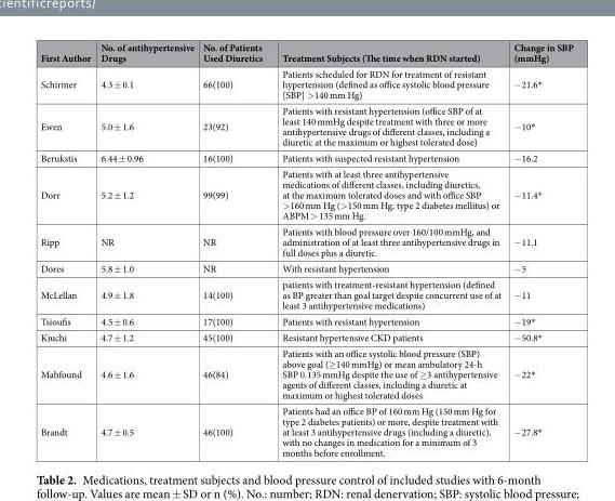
<table><thead><tr><td>First Author</td><td>No. of antihypertensive Drugs</td><td>No. of Patients Used Diuretics</td><td>Treatment Subjects (The time when RDN started)</td><td>Change in SBP (mmHg)</td></tr></thead><tbody><tr><td>Schirmer</td><td>4.3 ± 0.1</td><td>66(100)</td><td>Patients scheduled for RDN for treatment of resistant hypertension (defined as office systolic blood pressure [SBP] &gt;140 mm Hg)</td><td>−21.6*</td></tr><tr><td>Ewen</td><td>5.0 ± 1.6</td><td>23(92)</td><td>Patients with resistant hypertension (office SBP of at least 140 mmHg despite treatment with three or more antihypertensive drugs of different classes, including a diuretic at the maximum or highest tolerated dose)</td><td>−10*</td></tr><tr><td>Berukstis</td><td>6.44 ± 0.96</td><td>16(100)</td><td>Patients with suspected resistant hypertension</td><td>−16.2</td></tr><tr><td>Dorr</td><td>5.2 ± 1.2</td><td>99(99)</td><td>Patients with at least three antihypertensive medications of different classes, including diuretics, at the maximum tolerated doses and with office SBP &gt;160 mm Hg (&gt;150 mm Hg, type 2 diabetes mellitus) or ABPM &gt; 135 mm Hg.</td><td>−11.4*</td></tr><tr><td>Ripp</td><td>NR</td><td>NR</td><td>Patients with blood pressure over 160/100 mmHg, and administration of at least three antihypertensive drugs in full doses plus a diuretic.</td><td>−11.1</td></tr><tr><td>Dores</td><td>5.8 ± 1.0</td><td>NR</td><td>With resistant hypertension</td><td>−5</td></tr><tr><td>McLellan</td><td>4.9 ± 1.8</td><td>14(100)</td><td>patients with treatment-resistant hypertension (defined as BP greater than goal target despite concurrent use of at least 3 antihypertensive medications)</td><td>−11</td></tr><tr><td>Tsioufis</td><td>4.5 ± 0.6</td><td>17(100)</td><td>Patients with resistant hypertension</td><td>−19*</td></tr><tr><td>Kiuchi</td><td>4.7 ± 1.2</td><td>45(100)</td><td>Resistant hypertensive CKD patients</td><td>−50.8*</td></tr><tr><td>Mahfound</td><td>4.6 ± 1.6</td><td>46(84)</td><td>Patients with an office systolic blood pressure (SBP) above goal (≥140 mmHg) or mean ambulatory 24-h SBP 0.135 mmHg despite the use of ≥3 antihypertensive agents of different classes, including a diuretic at maximum or highest tolerated doses</td><td>−22*</td></tr><tr><td>Brandt</td><td>4.7 ± 0.5</td><td>46(100)</td><td>Patients had an office BP of 160 mm Hg (150 mm Hg for type 2 diabetes patients) or more, despite treatment with at least 3 antihypertensive drugs (including a diuretic), with no changes in medication for a minimum of 3 months before enrollment.</td><td>−27.8*</td></tr></tbody></table>